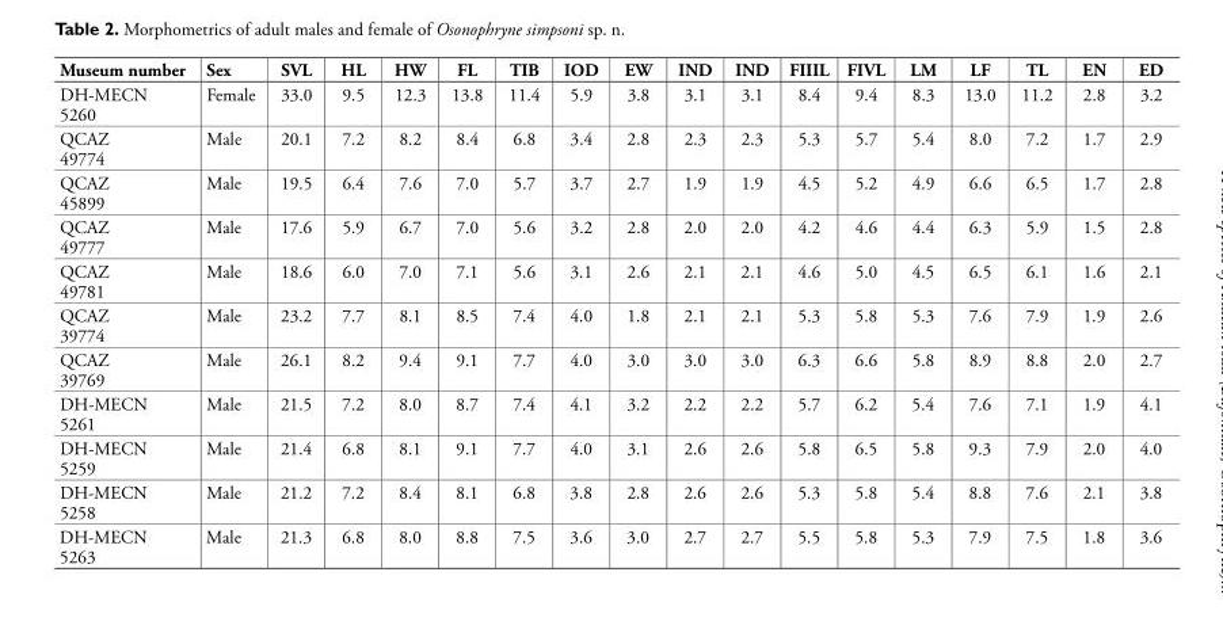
<table><thead><tr><td>Museum number</td><td>Sex</td><td>SVL</td><td>HL</td><td>HW</td><td>FL</td><td>TIB</td><td>IOD</td><td>EW</td><td>IND</td><td>IND</td><td>FIIIL</td><td>FIVL</td><td>LM</td><td>LF</td><td>TL</td><td>EN</td><td>ED</td></tr></thead><tbody><tr><td>DH-MECN 5260</td><td>Female</td><td>33.0</td><td>9.5</td><td>12.3</td><td>13.8</td><td>11.4</td><td>5.9</td><td>3.8</td><td>3.1</td><td>3.1</td><td>8.4</td><td>9.4</td><td>8.3</td><td>13.0</td><td>11.2</td><td>2.8</td><td>3.2</td></tr><tr><td>QCAZ 49774</td><td>Male</td><td>20.1</td><td>7.2</td><td>8.2</td><td>8.4</td><td>6.8</td><td>3.4</td><td>2.8</td><td>2.3</td><td>2.3</td><td>5.3</td><td>5.7</td><td>5.4</td><td>8.0</td><td>7.2</td><td>1.7</td><td>2.9</td></tr><tr><td>QCAZ 45899</td><td>Male</td><td>19.5</td><td>6.4</td><td>7.6</td><td>7.0</td><td>5.7</td><td>3.7</td><td>2.7</td><td>1.9</td><td>1.9</td><td>4.5</td><td>5.2</td><td>4.9</td><td>6.6</td><td>6.5</td><td>1.7</td><td>2.8</td></tr><tr><td>QCAZ 49777</td><td>Male</td><td>17.6</td><td>5.9</td><td>6.7</td><td>7.0</td><td>5.6</td><td>3.2</td><td>2.8</td><td>2.0</td><td>2.0</td><td>4.2</td><td>4.6</td><td>4.4</td><td>6.3</td><td>5.9</td><td>1.5</td><td>2.8</td></tr><tr><td>QCAZ 49781</td><td>Male</td><td>18.6</td><td>6.0</td><td>7.0</td><td>7.1</td><td>5.6</td><td>3.1</td><td>2.6</td><td>2.1</td><td>2.1</td><td>4.6</td><td>5.0</td><td>4.5</td><td>6.5</td><td>6.1</td><td>1.6</td><td>2.1</td></tr><tr><td>QCAZ 39774</td><td>Male</td><td>23.2</td><td>7.7</td><td>8.1</td><td>8.5</td><td>7.4</td><td>4.0</td><td>1.8</td><td>2.1</td><td>2.1</td><td>5.3</td><td>5.8</td><td>5.3</td><td>7.6</td><td>7.9</td><td>1.9</td><td>2.6</td></tr><tr><td>QCAZ 39769</td><td>Male</td><td>26.1</td><td>8.2</td><td>9.4</td><td>9.1</td><td>7.7</td><td>4.0</td><td>3.0</td><td>3.0</td><td>3.0</td><td>6.3</td><td>6.6</td><td>5.8</td><td>8.9</td><td>8.8</td><td>2.0</td><td>2.7</td></tr><tr><td>DH-MECN 5261</td><td>Male</td><td>21.5</td><td>7.2</td><td>8.0</td><td>8.7</td><td>7.4</td><td>4.1</td><td>3.2</td><td>2.2</td><td>2.2</td><td>5.7</td><td>6.2</td><td>5.4</td><td>7.6</td><td>7.1</td><td>1.9</td><td>4.1</td></tr><tr><td>DH-MECN 5259</td><td>Male</td><td>21.4</td><td>6.8</td><td>8.1</td><td>9.1</td><td>7.7</td><td>4.0</td><td>3.1</td><td>2.6</td><td>2.6</td><td>5.8</td><td>6.5</td><td>5.8</td><td>9.3</td><td>7.9</td><td>2.0</td><td>4.0</td></tr><tr><td>DH-MECN 5258</td><td>Male</td><td>21.2</td><td>7.2</td><td>8.4</td><td>8.1</td><td>6.8</td><td>3.8</td><td>2.8</td><td>2.6</td><td>2.6</td><td>5.3</td><td>5.8</td><td>5.4</td><td>8.8</td><td>7.6</td><td>2.1</td><td>3.8</td></tr><tr><td>DH-MECN 5263</td><td>Male</td><td>21.3</td><td>6.8</td><td>8.0</td><td>8.8</td><td>7.5</td><td>3.6</td><td>3.0</td><td>2.7</td><td>2.7</td><td>5.5</td><td>5.8</td><td>5.3</td><td>7.9</td><td>7.5</td><td>1.8</td><td>3.6</td></tr></tbody></table>